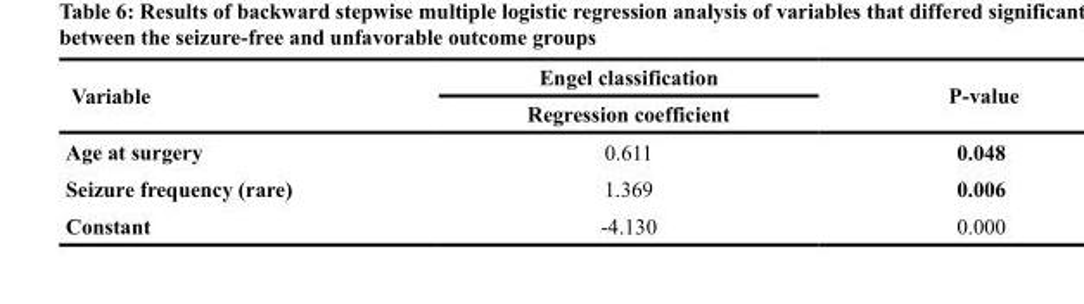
<table><thead><tr><td rowspan="2">Variable</td><td rowspan="2">Engel classification Regression coefficient</td><td rowspan="2">P-value</td></tr><tr></tr></thead><tbody><tr><td>Age at surgery</td><td>0.611</td><td>0.048</td></tr><tr><td>Seizure frequency (rare)</td><td>1.369</td><td>0.006</td></tr><tr><td>Constant</td><td>-4.130</td><td>0.000</td></tr></tbody></table>